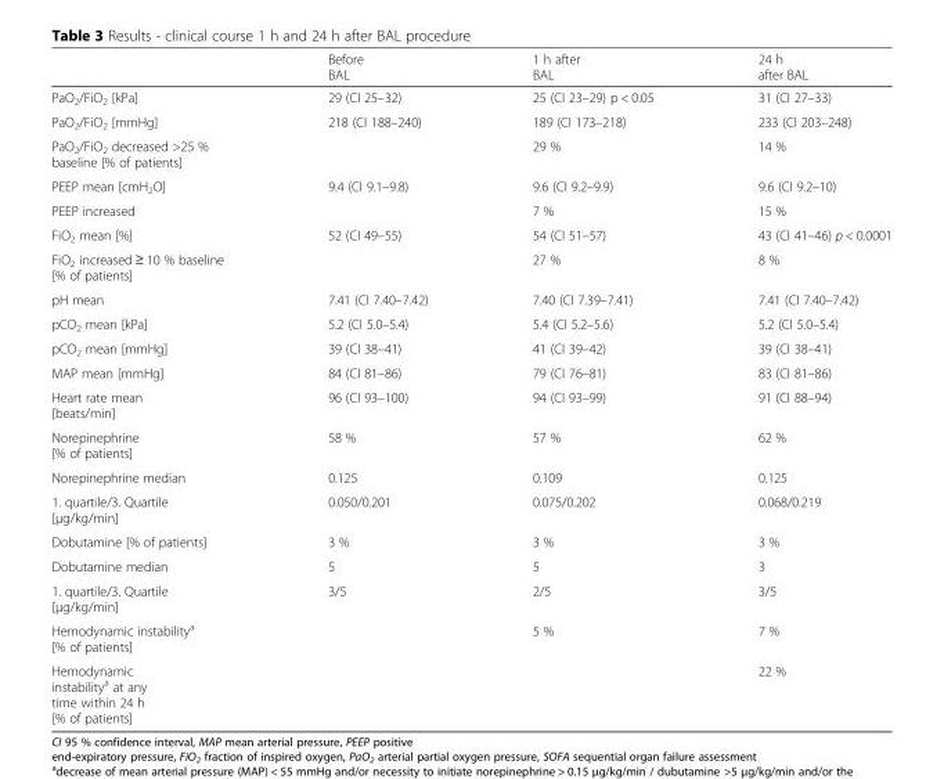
<table><thead><tr><td></td><td>Before BAL</td><td>1 h after BAL</td><td>24 h after BAL</td></tr></thead><tbody><tr><td>PaO<sub>2</sub>/FiO<sub>2</sub> [kPa]</td><td>29 (CI 25–32)</td><td>25 (CI 23–29) p &lt; 0.05</td><td>31 (CI 27–33)</td></tr><tr><td>PaO<sub>2</sub>/FiO<sub>2</sub> [mmHg]</td><td>218 (CI 188–240)</td><td>189 (CI 173–218)</td><td>233 (CI 203–248)</td></tr><tr><td>PaO<sub>2</sub>/FiO<sub>2</sub> decreased &gt;25 % baseline [% of patients]</td><td></td><td>29 %</td><td>14 %</td></tr><tr><td>PEEP mean [cmH<sub>2</sub>O]</td><td>9.4 (CI 9.1–9.8)</td><td>9.6 (CI 9.2–9.9)</td><td>9.6 (CI 9.2–10)</td></tr><tr><td>PEEP increased</td><td></td><td>7 %</td><td>15 %</td></tr><tr><td>FiO<sub>2</sub> mean [%]</td><td>52 (CI 49–55)</td><td>54 (CI 51–57)</td><td>43 (CI 41–46) p &lt; 0.0001</td></tr><tr><td>FiO<sub>2</sub> increased ≥ 10 % baseline [% of patients]</td><td></td><td>27 %</td><td>8 %</td></tr><tr><td>pH mean</td><td>7.41 (CI 7.40–7.42)</td><td>7.40 (CI 7.39–7.41)</td><td>7.41 (CI 7.40–7.42)</td></tr><tr><td>pCO<sub>2</sub> mean [kPa]</td><td>5.2 (CI 5.0–5.4)</td><td>5.4 (CI 5.2–5.6)</td><td>5.2 (CI 5.0–5.4)</td></tr><tr><td>pCO<sub>2</sub> mean [mmHg]</td><td>39 (CI 38–41)</td><td>41 (CI 39–42)</td><td>39 (CI 38–41)</td></tr><tr><td>MAP mean [mmHg]</td><td>84 (CI 81–86)</td><td>79 (CI 76–81)</td><td>83 (CI 81–86)</td></tr><tr><td>Heart rate mean [beats/min]</td><td>96 (CI 93–100)</td><td>94 (CI 93–99)</td><td>91 (CI 88–94)</td></tr><tr><td>Norepinephrine [% of patients]</td><td>58 %</td><td>57 %</td><td>62 %</td></tr><tr><td>Norepinephrine median</td><td>0.125</td><td>0.109</td><td>0.125</td></tr><tr><td>1. quartile/3. Quartile [μg/kg/min]</td><td>0.050/0.201</td><td>0.075/0.202</td><td>0.068/0.219</td></tr><tr><td>Dobutamine [% of patients]</td><td>3 %</td><td>3 %</td><td>3 %</td></tr><tr><td>Dobutamine median</td><td>5</td><td>5</td><td>3</td></tr><tr><td>1. quartile/3. Quartile [μg/kg/min]</td><td>3/5</td><td>2/5</td><td>3/5</td></tr><tr><td>Hemodynamic instability<sup>a</sup> [% of patients]</td><td></td><td>5 %</td><td>7 %</td></tr><tr><td>Hemodynamic instability<sup>a</sup> at any time within 24 h [% of patients]</td><td></td><td></td><td>22 %</td></tr></tbody></table>